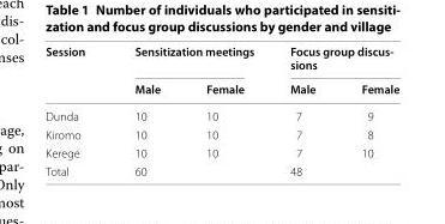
<table><thead><tr><td rowspan="2">Session</td><td colspan="2">Sensitization meetings</td><td colspan="2">Focus group discus- sions</td></tr><tr><td>Male</td><td>Female</td><td>Male</td><td>Female</td></tr></thead><tbody><tr><td>Dunda</td><td>10</td><td>10</td><td>7</td><td>9</td></tr><tr><td>Kiromo</td><td>10</td><td>10</td><td>7</td><td>8</td></tr><tr><td>Kerege</td><td>10</td><td>10</td><td>7</td><td>10</td></tr><tr><td>Total</td><td colspan="2">60</td><td colspan="2">48</td></tr></tbody></table>